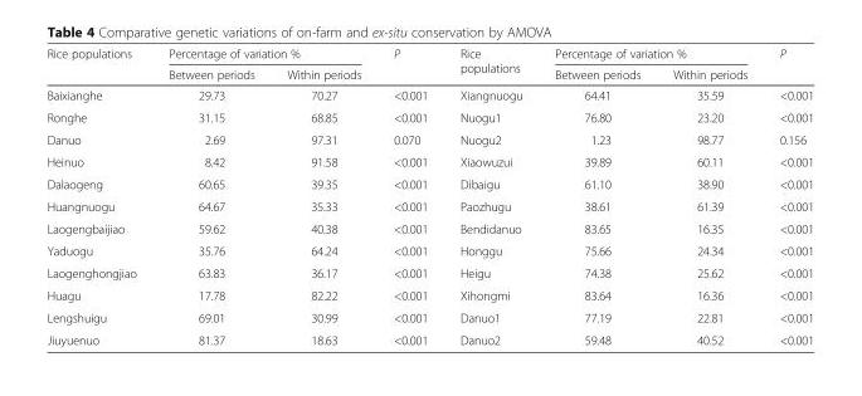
<table><thead><tr><td rowspan="2">Rice populations</td><td colspan="2">Percentage of variation %</td><td rowspan="2">P</td><td rowspan="2">Rice populations</td><td colspan="2">Percentage of variation %</td><td rowspan="2">P</td></tr><tr><td>Between periods</td><td>Within periods</td><td>Between periods</td><td>Within periods</td></tr></thead><tbody><tr><td>Baixianghe</td><td>29.73</td><td>70.27</td><td>&lt;0.001</td><td>Xiangnuogu</td><td>64.41</td><td>35.59</td><td>&lt;0.001</td></tr><tr><td>Ronghe</td><td>31.15</td><td>68.85</td><td>&lt;0.001</td><td>Nuogu1</td><td>76.80</td><td>23.20</td><td>&lt;0.001</td></tr><tr><td>Danuo</td><td>2.69</td><td>97.31</td><td>0.070</td><td>Nuogu2</td><td>1.23</td><td>98.77</td><td>0.156</td></tr><tr><td>Heinuo</td><td>8.42</td><td>91.58</td><td>&lt;0.001</td><td>Xiaowuzui</td><td>39.89</td><td>60.11</td><td>&lt;0.001</td></tr><tr><td>Dalaogeng</td><td>60.65</td><td>39.35</td><td>&lt;0.001</td><td>Dibaigu</td><td>61.10</td><td>38.90</td><td>&lt;0.001</td></tr><tr><td>Huangnuogu</td><td>64.67</td><td>35.33</td><td>&lt;0.001</td><td>Paozhugu</td><td>38.61</td><td>61.39</td><td>&lt;0.001</td></tr><tr><td>Laogengbaijiao</td><td>59.62</td><td>40.38</td><td>&lt;0.001</td><td>Bendidanuo</td><td>83.65</td><td>16.35</td><td>&lt;0.001</td></tr><tr><td>Yaduogu</td><td>35.76</td><td>64.24</td><td>&lt;0.001</td><td>Honggu</td><td>75.66</td><td>24.34</td><td>&lt;0.001</td></tr><tr><td>Laogenghongjiao</td><td>63.83</td><td>36.17</td><td>&lt;0.001</td><td>Heigu</td><td>74.38</td><td>25.62</td><td>&lt;0.001</td></tr><tr><td>Huagu</td><td>17.78</td><td>82.22</td><td>&lt;0.001</td><td>Xihongmi</td><td>83.64</td><td>16.36</td><td>&lt;0.001</td></tr><tr><td>Lengshuigu</td><td>69.01</td><td>30.99</td><td>&lt;0.001</td><td>Danuo1</td><td>77.19</td><td>22.81</td><td>&lt;0.001</td></tr><tr><td>Jiuyuenuo</td><td>81.37</td><td>18.63</td><td>&lt;0.001</td><td>Danuo2</td><td>59.48</td><td>40.52</td><td>&lt;0.001</td></tr></tbody></table>